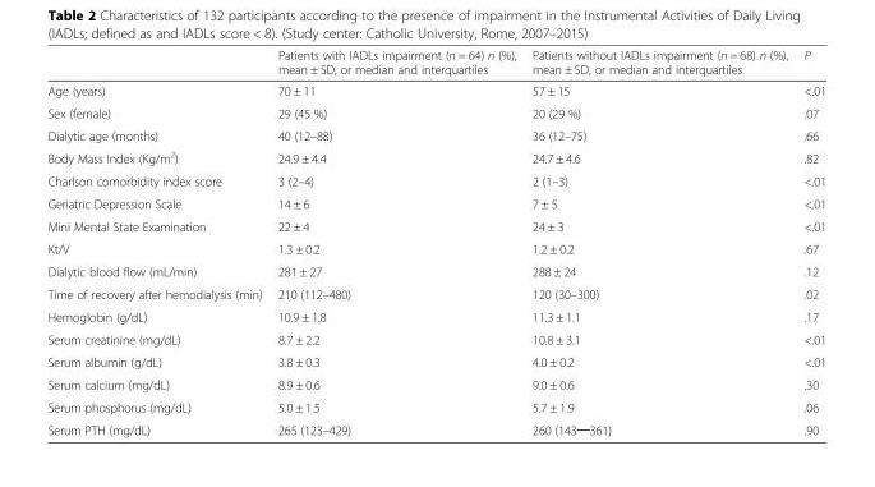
<table><thead><tr><td></td><td>Patients with IADLs impairment (n = 64) n (%), mean ± SD, or median and interquartiles</td><td>Patients without IADLs impairment (n = 68) n (%), mean ± SD, or median and interquartiles</td><td>P</td></tr></thead><tbody><tr><td>Age (years)</td><td>70 ± 11</td><td>57 ± 15</td><td>&lt;.01</td></tr><tr><td>Sex (female)</td><td>29 (45 %)</td><td>20 (29 %)</td><td>.07</td></tr><tr><td>Dialytic age (months)</td><td>40 (12–88)</td><td>36 (12–75)</td><td>.66</td></tr><tr><td>Body Mass Index (Kg/m<sup>2</sup>)</td><td>24.9 ± 4.4</td><td>24.7 ± 4.6</td><td>.82</td></tr><tr><td>Charlson comorbidity index score</td><td>3 (2–4)</td><td>2 (1–3)</td><td>&lt;.01</td></tr><tr><td>Geriatric Depression Scale</td><td>14 ± 6</td><td>7 ± 5</td><td>&lt;.01</td></tr><tr><td>Mini Mental State Examination</td><td>22 ± 4</td><td>24 ± 3</td><td>&lt;.01</td></tr><tr><td>Kt/V</td><td>1.3 ± 0.2</td><td>1.2 ± 0.2</td><td>.67</td></tr><tr><td>Dialytic blood flow (mL/min)</td><td>281 ± 27</td><td>288 ± 24</td><td>.12</td></tr><tr><td>Time of recovery after hemodialysis (min)</td><td>210 (112–480)</td><td>120 (30–300)</td><td>.02</td></tr><tr><td>Hemoglobin (g/dL)</td><td>10.9 ± 1.8</td><td>11.3 ± 1.1</td><td>.17</td></tr><tr><td>Serum creatinine (mg/dL)</td><td>8.7 ± 2.2</td><td>10.8 ± 3.1</td><td>&lt;.01</td></tr><tr><td>Serum albumin (g/dL)</td><td>3.8 ± 0.3</td><td>4.0 ± 0.2</td><td>&lt;.01</td></tr><tr><td>Serum calcium (mg/dL)</td><td>8.9 ± 0.6</td><td>9.0 ± 0.6</td><td>.30</td></tr><tr><td>Serum phosphorus (mg/dL)</td><td>5.0 ± 1.5</td><td>5.7 ± 1.9</td><td>.06</td></tr><tr><td>Serum PTH (mg/dL)</td><td>265 (123–429)</td><td>260 (143─361)</td><td>.90</td></tr></tbody></table>